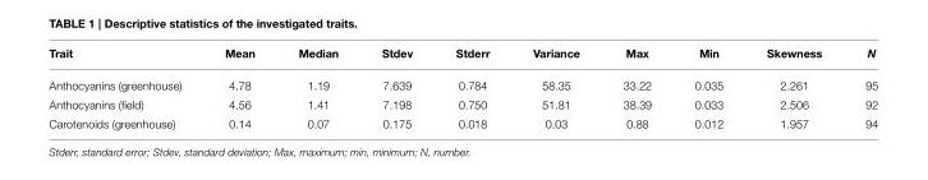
<table><thead><tr><td>Trait</td><td>Mean</td><td>Median</td><td>Stdev</td><td>Stderr</td><td>Variance</td><td>Max</td><td>Min</td><td>Skewness</td><td>N</td></tr></thead><tbody><tr><td>Anthocyanins (greenhouse)</td><td>4.78</td><td>1.19</td><td>7.639</td><td>0.784</td><td>58.35</td><td>33.22</td><td>0.035</td><td>2.261</td><td>95</td></tr><tr><td>Anthocyanins (field)</td><td>4.56</td><td>1.41</td><td>7.198</td><td>0.750</td><td>51.81</td><td>38.39</td><td>0.033</td><td>2.506</td><td>92</td></tr><tr><td>Carotenoids (greenhouse)</td><td>0.14</td><td>0.07</td><td>0.175</td><td>0.018</td><td>0.03</td><td>0.88</td><td>0.012</td><td>1.957</td><td>94</td></tr></tbody></table>